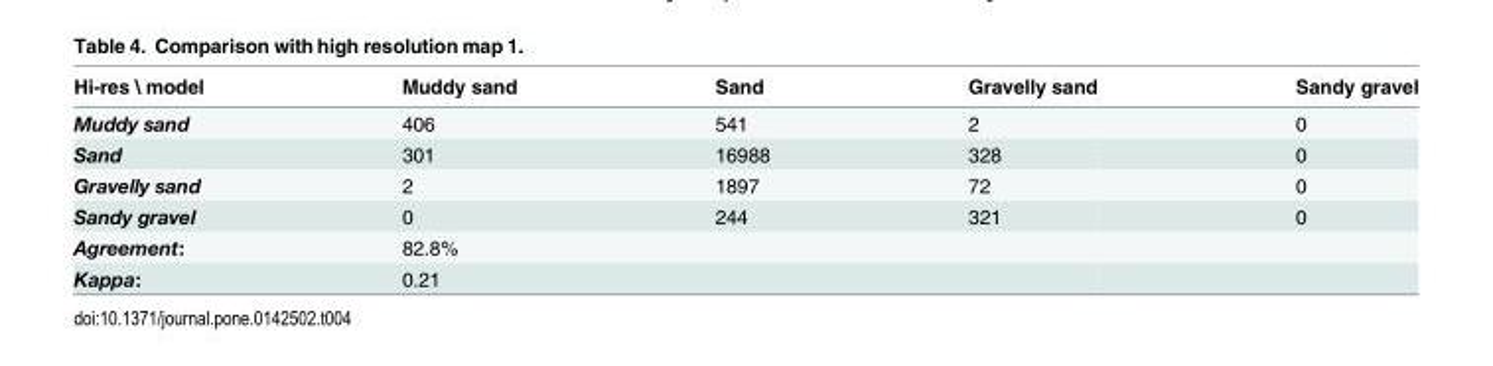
<table><thead><tr><td>Hi-res \ model</td><td>Muddy sand</td><td>Sand</td><td>Gravelly sand</td><td>Sandy gravel</td></tr></thead><tbody><tr><td>Muddy sand</td><td>406</td><td>541</td><td>2</td><td>0</td></tr><tr><td>Sand</td><td>301</td><td>16988</td><td>328</td><td>0</td></tr><tr><td>Gravelly sand</td><td>2</td><td>1897</td><td>72</td><td>0</td></tr><tr><td>Sandy gravel</td><td>0</td><td>244</td><td>321</td><td>0</td></tr><tr><td>Agreement:</td><td>82.8%</td><td></td><td></td><td></td></tr><tr><td>Kappa:</td><td>0.21</td><td></td><td></td><td></td></tr></tbody></table>